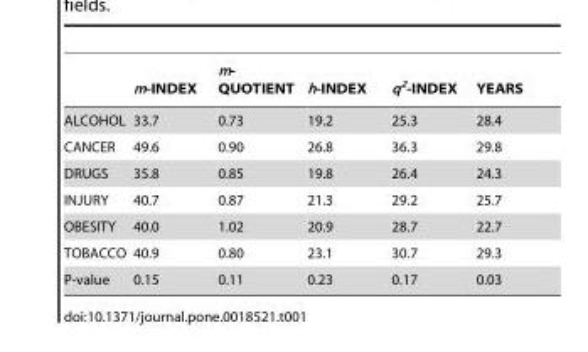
<table><thead><tr><td></td><td>m-INDEX</td><td>m- QUOTIENT</td><td>h-INDEX</td><td>q<sup>2</sup>-INDEX</td><td>YEARS</td></tr></thead><tbody><tr><td>ALCOHOL</td><td>33.7</td><td>0.73</td><td>19.2</td><td>25.3</td><td>28.4</td></tr><tr><td>CANCER</td><td>49.6</td><td>0.90</td><td>26.8</td><td>36.3</td><td>29.8</td></tr><tr><td>DRUGS</td><td>35.8</td><td>0.85</td><td>19.8</td><td>26.4</td><td>24.3</td></tr><tr><td>INJURY</td><td>40.7</td><td>0.87</td><td>21.3</td><td>29.2</td><td>25.7</td></tr><tr><td>OBESITY</td><td>40.0</td><td>1.02</td><td>20.9</td><td>28.7</td><td>22.7</td></tr><tr><td>TOBACCO</td><td>40.9</td><td>0.80</td><td>23.1</td><td>30.7</td><td>29.3</td></tr><tr><td>P-value</td><td>0.15</td><td>0.11</td><td>0.23</td><td>0.17</td><td>0.03</td></tr></tbody></table>